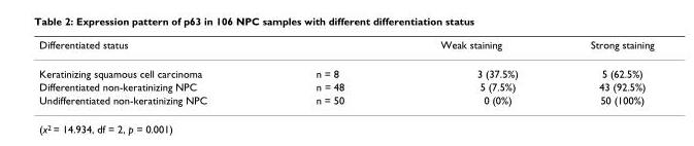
<table><thead><tr><td>Differentiated status</td><td></td><td>Weak staining</td><td>Strong staining</td></tr></thead><tbody><tr><td>Keratinizing squamous cell carcinoma</td><td>n = 8</td><td>3 (37.5%)</td><td>5 (62.5%)</td></tr><tr><td>Differentiated non-keratinizing NPC</td><td>n = 48</td><td>5 (7.5%)</td><td>43 (92.5%)</td></tr><tr><td>Undifferentiated non-keratinizing NPC</td><td>n = 50</td><td>0 (0%)</td><td>50 (100%)</td></tr></tbody></table>